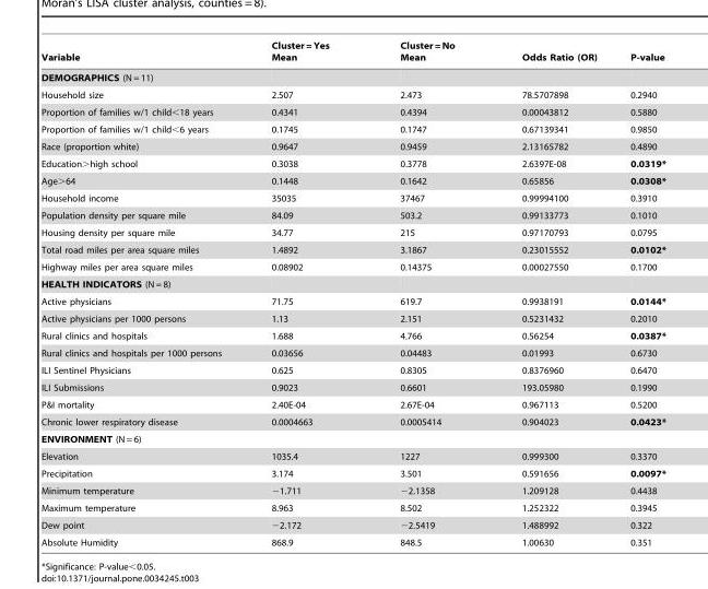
<table><thead><tr><td>Variable</td><td>Cluster = Yes Mean</td><td>Cluster = No Mean</td><td>Odds Ratio (OR)</td><td>P-value</td></tr></thead><tbody><tr><td colspan="5">DEMOGRAPHICS (N = 11)</td></tr><tr><td>Household size</td><td>2.507</td><td>2.473</td><td>78.5707898</td><td>0.2940</td></tr><tr><td>Proportion of families w/1 child&lt;18 years</td><td>0.4341</td><td>0.4394</td><td>0.00043812</td><td>0.5880</td></tr><tr><td>Proportion of families w/1 child&lt;6 years</td><td>0.1745</td><td>0.1747</td><td>0.67139341</td><td>0.9850</td></tr><tr><td>Race (proportion white)</td><td>0.9647</td><td>0.9459</td><td>2.13165782</td><td>0.4890</td></tr><tr><td>Education&gt;high school</td><td>0.3038</td><td>0.3778</td><td>2.6397E-08</td><td>0.0319*</td></tr><tr><td>Age&gt;64</td><td>0.1448</td><td>0.1642</td><td>0.65856</td><td>0.0308*</td></tr><tr><td>Household income</td><td>35035</td><td>37467</td><td>0.99994100</td><td>0.3910</td></tr><tr><td>Population density per square mile</td><td>84.09</td><td>503.2</td><td>0.99133773</td><td>0.1010</td></tr><tr><td>Housing density per square mile</td><td>34.77</td><td>215</td><td>0.97170793</td><td>0.0795</td></tr><tr><td>Total road miles per area square miles</td><td>1.4892</td><td>3.1867</td><td>0.23015552</td><td>0.0102*</td></tr><tr><td>Highway miles per area square miles</td><td>0.08902</td><td>0.14375</td><td>0.00027550</td><td>0.1700</td></tr><tr><td colspan="5">HEALTH INDICATORS (N = 8)</td></tr><tr><td>Active physicians</td><td>71.75</td><td>619.7</td><td>0.9938191</td><td>0.0144*</td></tr><tr><td>Active physicians per 1000 persons</td><td>1.13</td><td>2.151</td><td>0.5231432</td><td>0.2010</td></tr><tr><td>Rural clinics and hospitals</td><td>1.688</td><td>4.766</td><td>0.56254</td><td>0.0387*</td></tr><tr><td>Rural clinics and hospitals per 1000 persons</td><td>0.03656</td><td>0.04483</td><td>0.01993</td><td>0.6730</td></tr><tr><td>ILI Sentinel Physicians</td><td>0.625</td><td>0.8305</td><td>0.8376960</td><td>0.6470</td></tr><tr><td>ILI Submissions</td><td>0.9023</td><td>0.6601</td><td>193.05980</td><td>0.1990</td></tr><tr><td>P&amp;I mortality</td><td>2.40E-04</td><td>2.67E-04</td><td>0.967113</td><td>0.5200</td></tr><tr><td>Chronic lower respiratory disease</td><td>0.0004663</td><td>0.0005414</td><td>0.904023</td><td>0.0423*</td></tr><tr><td colspan="5">ENVIRONMENT (N = 6)</td></tr><tr><td>Elevation</td><td>1035.4</td><td>1227</td><td>0.999300</td><td>0.3370</td></tr><tr><td>Precipitation</td><td>3.174</td><td>3.501</td><td>0.591656</td><td>0.0097*</td></tr><tr><td>Minimum temperature</td><td>−1.711</td><td>−2.1358</td><td>1.209128</td><td>0.4438</td></tr><tr><td>Maximum temperature</td><td>8.963</td><td>8.502</td><td>1.252322</td><td>0.3945</td></tr><tr><td>Dew point</td><td>−2.172</td><td>−2.5419</td><td>1.488992</td><td>0.322</td></tr><tr><td>Absolute Humidity</td><td>868.9</td><td>848.5</td><td>1.00630</td><td>0.351</td></tr></tbody></table>